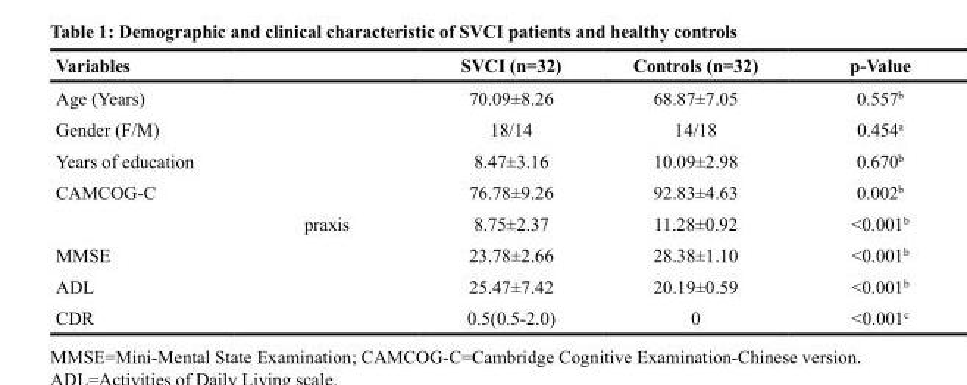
<table><thead><tr><td>Variables</td><td></td><td>SVCI (n=32)</td><td>Controls (n=32)</td><td>p-Value</td></tr></thead><tbody><tr><td>Age (Years)</td><td></td><td>70.09±8.26</td><td>68.87±7.05</td><td>0.557<sup>b</sup></td></tr><tr><td>Gender (F/M)</td><td></td><td>18/14</td><td>14/18</td><td>0.454<sup>a</sup></td></tr><tr><td>Years of education</td><td></td><td>8.47±3.16</td><td>10.09±2.98</td><td>0.670<sup>b</sup></td></tr><tr><td rowspan="2">CAMCOG-C</td><td></td><td>76.78±9.26</td><td>92.83±4.63</td><td>0.002<sup>b</sup></td></tr><tr><td>praxis</td><td>8.75±2.37</td><td>11.28±0.92</td><td>&lt;0.001<sup>b</sup></td></tr><tr><td>MMSE</td><td></td><td>23.78±2.66</td><td>28.38±1.10</td><td>&lt;0.001<sup>b</sup></td></tr><tr><td>ADL</td><td></td><td>25.47±7.42</td><td>20.19±0.59</td><td>&lt;0.001<sup>b</sup></td></tr><tr><td>CDR</td><td></td><td>0.5(0.5-2.0)</td><td>0</td><td>&lt;0.001<sup>c</sup></td></tr></tbody></table>